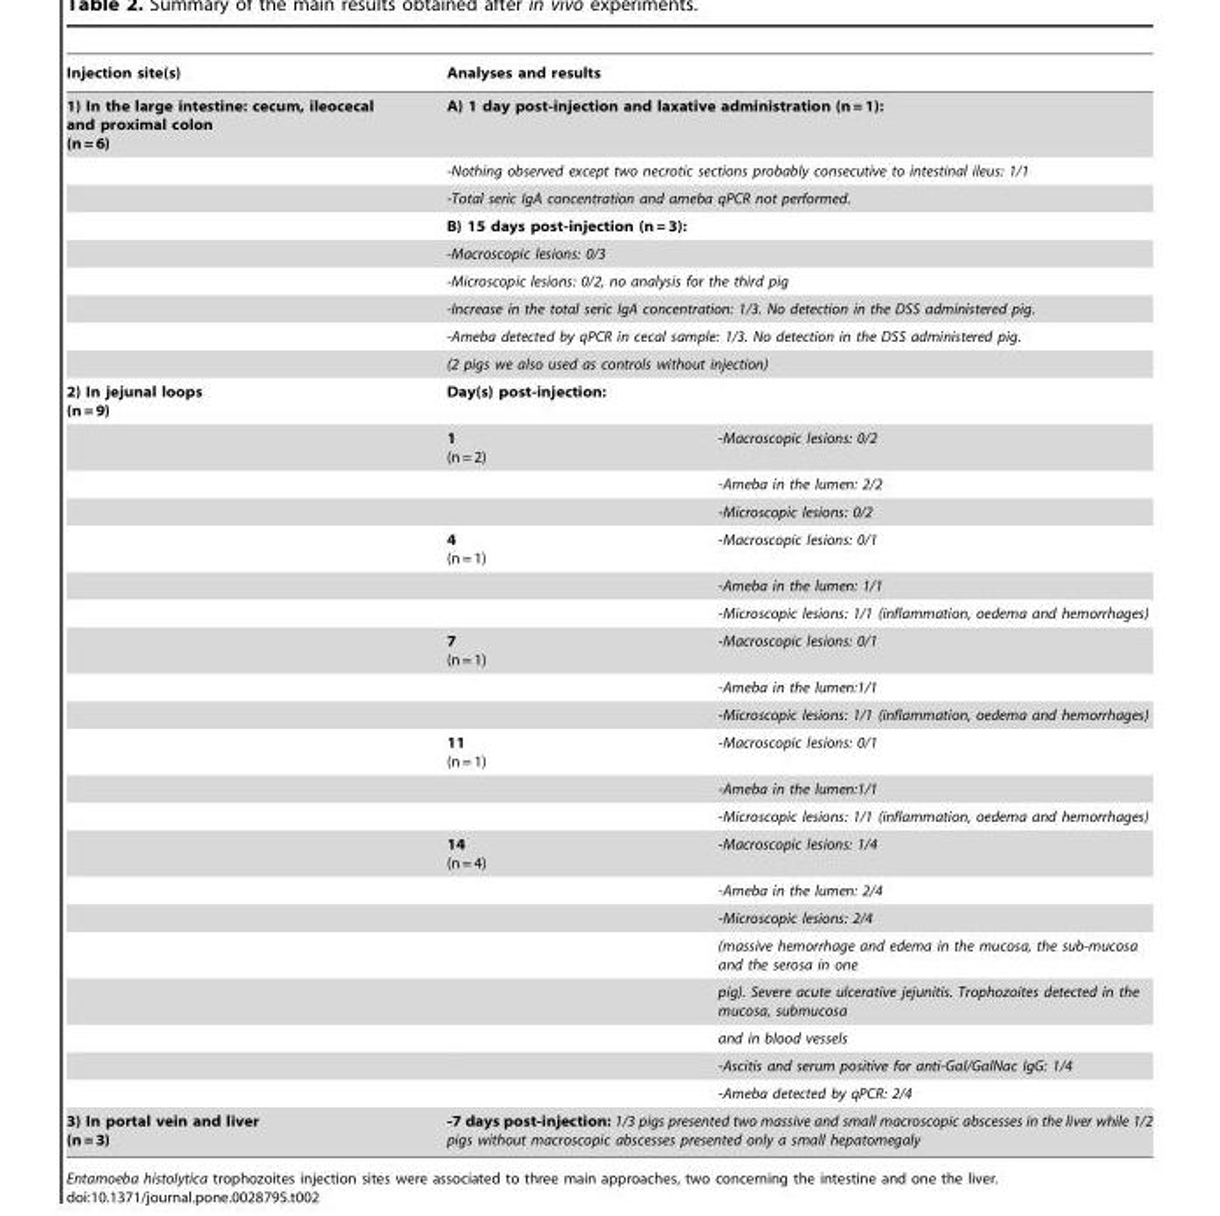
<table><thead><tr><td>Injection site(s)</td><td colspan="2">Analyses and results</td></tr></thead><tbody><tr><td rowspan="9">1) In the large intestine: cecum, ileocecal and proximal colon (n = 6)</td><td colspan="2">A) 1 day post-injection and laxative administration (n = 1):</td></tr><tr><td colspan="2">-Nothing observed except two necrotic sections probably consecutive to intestinal ileus: 1/1</td></tr><tr><td colspan="2">-Total seric IgA concentration and ameba qPCR not performed.</td></tr><tr><td colspan="2">B) 15 days post-injection (n = 3):</td></tr><tr><td colspan="2">-Macroscopic lesions: 0/3</td></tr><tr><td colspan="2">-Microscopic lesions: 0/2, no analysis for the third pig</td></tr><tr><td colspan="2">-Increase in the total seric IgA concentration: 1/3. No detection in the DSS administered pig.</td></tr><tr><td colspan="2">-Ameba detected by qPCR in cecal sample: 1/3. No detection in the DSS administered pig.</td></tr><tr><td colspan="2">(2 pigs we also used as controls without injection)</td></tr><tr><td rowspan="21">2) In jejunal loops (n = 9)</td><td>Day(s) post-injection:</td><td></td></tr><tr><td>1 (n = 2)</td><td>-Macroscopic lesions: 0/2</td></tr><tr><td></td><td>-Ameba in the lumen: 2/2</td></tr><tr><td></td><td>-Microscopic lesions: 0/2</td></tr><tr><td>4 (n = 1)</td><td>-Macroscopic lesions: 0/1</td></tr><tr><td></td><td>-Ameba in the lumen: 1/1</td></tr><tr><td></td><td>-Microscopic lesions: 1/1 (inflammation, oedema and hemorrhages)</td></tr><tr><td>7 (n = 1)</td><td>-Macroscopic lesions: 0/1</td></tr><tr><td></td><td>-Ameba in the lumen:1/1</td></tr><tr><td></td><td>-Microscopic lesions: 1/1 (inflammation, oedema and hemorrhages)</td></tr><tr><td>11 (n = 1)</td><td>-Macroscopic lesions: 0/1</td></tr><tr><td></td><td>-Ameba in the lumen:1/1</td></tr><tr><td></td><td>-Microscopic lesions: 1/1 (inflammation, oedema and hemorrhages)</td></tr><tr><td>14 (n = 4)</td><td>-Macroscopic lesions: 1/4</td></tr><tr><td></td><td>-Ameba in the lumen: 2/4</td></tr><tr><td></td><td>-Microscopic lesions: 2/4</td></tr><tr><td></td><td>(massive hemorrhage and edema in the mucosa, the sub-mucosa and the serosa in one</td></tr><tr><td></td><td>pig). Severe acute ulcerative jejunitis. Trophozoites detected in the mucosa, submucosa</td></tr><tr><td></td><td>and in blood vessels</td></tr><tr><td></td><td>-Ascitis and serum positive for anti-Gal/GalNac IgG: 1/4</td></tr><tr><td></td><td>-Ameba detected by qPCR: 2/4</td></tr><tr><td>3) In portal vein and liver (n = 3)</td><td colspan="2">-7 days post-injection: 1/3 pigs presented two massive and small macroscopic abscesses in the liver while 1/2 pigs without macroscopic abscesses presented only a small hepatomegaly</td></tr></tbody></table>